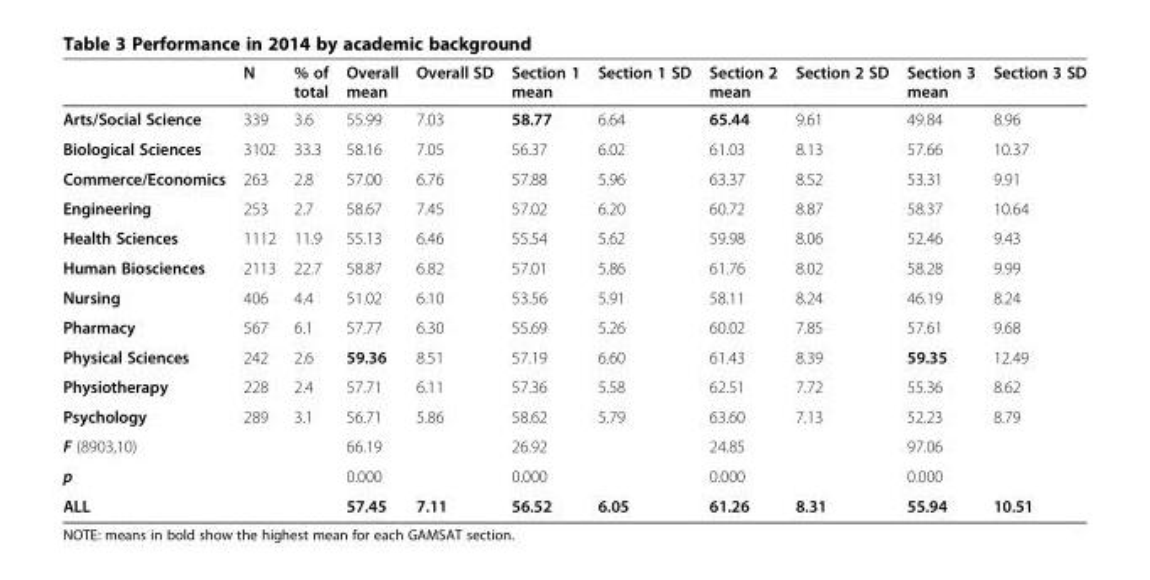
<table><thead><tr><td></td><td>N</td><td>% of total</td><td>Overall mean</td><td>Overall SD</td><td>Section 1 mean</td><td>Section 1 SD</td><td>Section 2 mean</td><td>Section 2 SD</td><td>Section 3 mean</td><td>Section 3 SD</td></tr></thead><tbody><tr><td>Arts/Social Science</td><td>339</td><td>3.6</td><td>55.99</td><td>7.03</td><td>58.77</td><td>6.64</td><td>65.44</td><td>9.61</td><td>49.84</td><td>8.96</td></tr><tr><td>Biological Sciences</td><td>3102</td><td>33.3</td><td>58.16</td><td>7.05</td><td>56.37</td><td>6.02</td><td>61.03</td><td>8.13</td><td>57.66</td><td>10.37</td></tr><tr><td>Commerce/Economics</td><td>263</td><td>2.8</td><td>57.00</td><td>6.76</td><td>57.88</td><td>5.96</td><td>63.37</td><td>8.52</td><td>53.31</td><td>9.91</td></tr><tr><td>Engineering</td><td>253</td><td>2.7</td><td>58.67</td><td>7.45</td><td>57.02</td><td>6.20</td><td>60.72</td><td>8.87</td><td>58.37</td><td>10.64</td></tr><tr><td>Health Sciences</td><td>1112</td><td>11.9</td><td>55.13</td><td>6.46</td><td>55.54</td><td>5.62</td><td>59.98</td><td>8.06</td><td>52.46</td><td>9.43</td></tr><tr><td>Human Biosciences</td><td>2113</td><td>22.7</td><td>58.87</td><td>6.82</td><td>57.01</td><td>5.86</td><td>61.76</td><td>8.02</td><td>58.28</td><td>9.99</td></tr><tr><td>Nursing</td><td>406</td><td>4.4</td><td>51.02</td><td>6.10</td><td>53.56</td><td>5.91</td><td>58.11</td><td>8.24</td><td>46.19</td><td>8.24</td></tr><tr><td>Pharmacy</td><td>567</td><td>6.1</td><td>57.77</td><td>6.30</td><td>55.69</td><td>5.26</td><td>60.02</td><td>7.85</td><td>57.61</td><td>9.68</td></tr><tr><td>Physical Sciences</td><td>242</td><td>2.6</td><td>59.36</td><td>8.51</td><td>57.19</td><td>6.60</td><td>61.43</td><td>8.39</td><td>59.35</td><td>12.49</td></tr><tr><td>Physiotherapy</td><td>228</td><td>2.4</td><td>57.71</td><td>6.11</td><td>57.36</td><td>5.58</td><td>62.51</td><td>7.72</td><td>55.36</td><td>8.62</td></tr><tr><td>Psychology</td><td>289</td><td>3.1</td><td>56.71</td><td>5.86</td><td>58.62</td><td>5.79</td><td>63.60</td><td>7.13</td><td>52.23</td><td>8.79</td></tr><tr><td>F (8903,10)</td><td></td><td></td><td colspan="2">66.19</td><td colspan="2">26.92</td><td colspan="2">24.85</td><td colspan="2">97.06</td></tr><tr><td>p</td><td></td><td></td><td colspan="2">0.000</td><td colspan="2">0.000</td><td colspan="2">0.000</td><td colspan="2">0.000</td></tr><tr><td>ALL</td><td></td><td></td><td>57.45</td><td>7.11</td><td>56.52</td><td>6.05</td><td>61.26</td><td>8.31</td><td>55.94</td><td>10.51</td></tr></tbody></table>